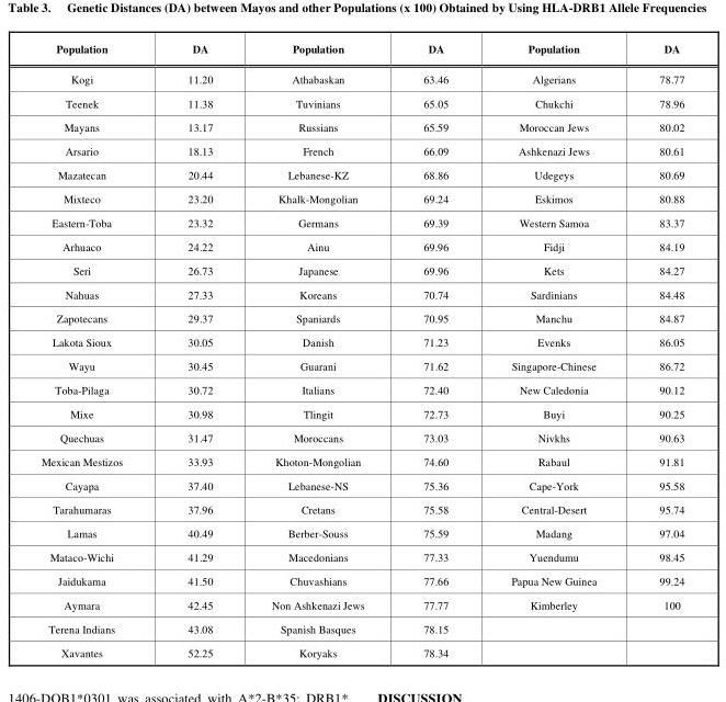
<table><thead><tr><td>Population</td><td>DA</td><td>Population</td><td>DA</td><td>Population</td><td>DA</td></tr></thead><tbody><tr><td>Kogi</td><td>11.20</td><td>Athabaskan</td><td>63.46</td><td>Algerians</td><td>78.77</td></tr><tr><td>Teenek</td><td>11.38</td><td>Tuvinians</td><td>65.05</td><td>Chukchi</td><td>78.96</td></tr><tr><td>Mayans</td><td>13.17</td><td>Russians</td><td>65.59</td><td>Moroccan Jews</td><td>80.02</td></tr><tr><td>Arsario</td><td>18.13</td><td>French</td><td>66.09</td><td>Ashkenazi Jews</td><td>80.61</td></tr><tr><td>Mazatecan</td><td>20.44</td><td>Lebanese-KZ</td><td>68.86</td><td>Udegeys</td><td>80.69</td></tr><tr><td>Mixteco</td><td>23.20</td><td>Khalk-Mongolian</td><td>69.24</td><td>Eskimos</td><td>80.88</td></tr><tr><td>Eastern-Toba</td><td>23.32</td><td>Germans</td><td>69.39</td><td>Western Samoa</td><td>83.37</td></tr><tr><td>Arhuaco</td><td>24.22</td><td>Ainu</td><td>69.96</td><td>Fidji</td><td>84.19</td></tr><tr><td>Seri</td><td>26.73</td><td>Japanese</td><td>69.96</td><td>Kets</td><td>84.27</td></tr><tr><td>Nahuas</td><td>27.33</td><td>Koreans</td><td>70.74</td><td>Sardinians</td><td>84.48</td></tr><tr><td>Zapotecans</td><td>29.37</td><td>Spaniards</td><td>70.95</td><td>Manchu</td><td>84.87</td></tr><tr><td>Lakota Sioux</td><td>30.05</td><td>Danish</td><td>71.23</td><td>Evenks</td><td>86.05</td></tr><tr><td>Wayu</td><td>30.45</td><td>Guarani</td><td>71.62</td><td>Singapore-Chinese</td><td>86.72</td></tr><tr><td>Toba-Pilaga</td><td>30.72</td><td>Italians</td><td>72.40</td><td>New Caledonia</td><td>90.12</td></tr><tr><td>Mixe</td><td>30.98</td><td>Tlingit</td><td>72.73</td><td>Buyi</td><td>90.25</td></tr><tr><td>Quechuas</td><td>31.47</td><td>Moroccans</td><td>73.03</td><td>Nivkhs</td><td>90.63</td></tr><tr><td>Mexican Mestizos</td><td>33.93</td><td>Khoton-Mongolian</td><td>74.60</td><td>Rabaul</td><td>91.81</td></tr><tr><td>Cayapa</td><td>37.40</td><td>Lebanese-NS</td><td>75.36</td><td>Cape-York</td><td>95.58</td></tr><tr><td>Tarahumaras</td><td>37.96</td><td>Cretans</td><td>75.58</td><td>Central-Desert</td><td>95.74</td></tr><tr><td>Lamas</td><td>40.49</td><td>Berber-Souss</td><td>75.59</td><td>Madang</td><td>97.04</td></tr><tr><td>Mataco-Wichi</td><td>41.29</td><td>Macedonians</td><td>77.33</td><td>Yuendumu</td><td>98.45</td></tr><tr><td>Jaidukama</td><td>41.50</td><td>Chuvashians</td><td>77.66</td><td>Papua New Guinea</td><td>99.24</td></tr><tr><td>Aymara</td><td>42.45</td><td>Non Ashkenazi Jews</td><td>77.77</td><td>Kimberley</td><td>100</td></tr><tr><td>Terena Indians</td><td>43.08</td><td>Spanish Basques</td><td>78.15</td><td></td><td></td></tr><tr><td>Xavantes</td><td>52.25</td><td>Koryaks</td><td>78.34</td><td></td><td></td></tr></tbody></table>